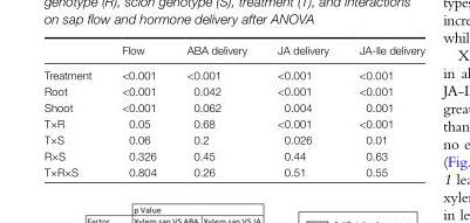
<table><thead><tr><td></td><td>Flow</td><td>ABA delivery</td><td>JA delivery</td><td>JA-Ile delivery</td></tr></thead><tbody><tr><td>Treatment</td><td>&lt;0.001</td><td>&lt;0.001</td><td>&lt;0.001</td><td>&lt;0.001</td></tr><tr><td>Root</td><td>&lt;0.001</td><td>0.042</td><td>&lt;0.001</td><td>&lt;0.001</td></tr><tr><td>Shoot</td><td>&lt;0.001</td><td>0.062</td><td>0.004</td><td>0.001</td></tr><tr><td>T×R</td><td>0.05</td><td>0.68</td><td>&lt;0.001</td><td>&lt;0.001</td></tr><tr><td>T×S</td><td>0.06</td><td>0.2</td><td>0.026</td><td>0.01</td></tr><tr><td>R×S</td><td>0.326</td><td>0.45</td><td>0.44</td><td>0.63</td></tr><tr><td>T×R×S</td><td>0.804</td><td>0.26</td><td>0.51</td><td>0.55</td></tr></tbody></table>